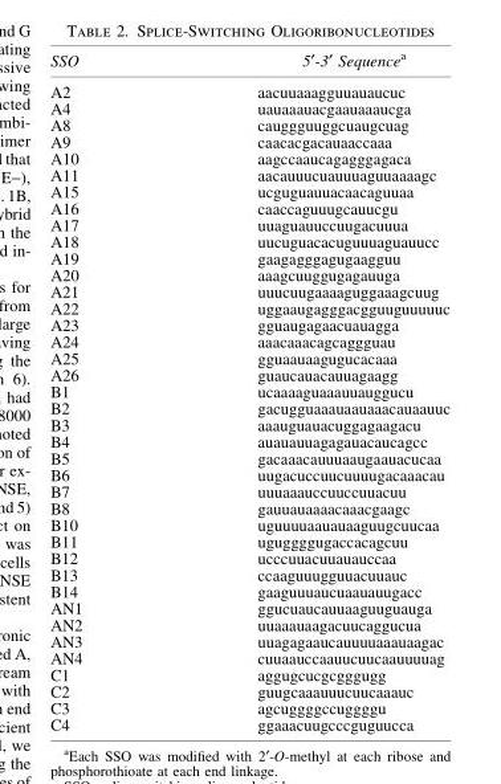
<table><thead><tr><td>SSO</td><td>5¢-3¢ Sequencea</td></tr></thead><tbody><tr><td>A2</td><td>aacuuaaagguuauaucuc</td></tr><tr><td>A4</td><td>uauaaauacgaauaaaucga</td></tr><tr><td>A8</td><td>cauggguuggcuaugcuag</td></tr><tr><td>A9</td><td>caacacgacauaaccaaa</td></tr><tr><td>A10</td><td>aagccaaucagagggagaca</td></tr><tr><td>A11</td><td>aacauuucuauuuaguuaaaagc</td></tr><tr><td>A15</td><td>ucguguauuacaacaguuaa</td></tr><tr><td>A16</td><td>caaccaguuugcauucgu</td></tr><tr><td>A17</td><td>uuaguauuccuugacuuua</td></tr><tr><td>A18</td><td>uucuguacacuguuuaguauucc</td></tr><tr><td>A19</td><td>gaagagggagugaagguu</td></tr><tr><td>A20</td><td>aaagcuuggugagauuga</td></tr><tr><td>A21</td><td>uuucuugaaaaguggaaagcuug</td></tr><tr><td>A22</td><td>uggaaugagggacgguuguuuuuc</td></tr><tr><td>A23</td><td>gguaugagaacuauagga</td></tr><tr><td>A24</td><td>aaacaaacagcaggguau</td></tr><tr><td>A25</td><td>gguaauaagugucacaaa</td></tr><tr><td>A26</td><td>guaucauacauuagaagg</td></tr><tr><td>B1</td><td>ucaaaaguaaauuauggucu</td></tr><tr><td>B2</td><td>gacugguaaauaauaaacauaauuc</td></tr><tr><td>B3</td><td>aaauguauacuggagaagacu</td></tr><tr><td>B4</td><td>auauauuagagauacaucagcc</td></tr><tr><td>B5</td><td>gacaaacauuuaaugaauacucaa</td></tr><tr><td>B6</td><td>uugacuccuucuuuugacaaacau</td></tr><tr><td>B7</td><td>uuuaaauccuuccuuacuu</td></tr><tr><td>B8</td><td>gauuauaaaacaaacgaagc</td></tr><tr><td>B10</td><td>uguuuuaauauaaguugcuucaa</td></tr><tr><td>B11</td><td>uguggggugaccacagcuu</td></tr><tr><td>B12</td><td>ucccuuacuuauauccaa</td></tr><tr><td>B13</td><td>ccaaguuugguuacuuauc</td></tr><tr><td>B14</td><td>gaaguuuaucuaauauugacc</td></tr><tr><td>AN1</td><td>ggucuaucauuaaguuguauga</td></tr><tr><td>AN2</td><td>uuaaauaagacuucaggucua</td></tr><tr><td>AN3</td><td>uuagagaaucauuuuaaauaagac</td></tr><tr><td>AN4</td><td>cuuaauccaauucuucaauuuuag</td></tr><tr><td>C1</td><td>aggugcucgcgggugg</td></tr><tr><td>C2</td><td>guugcaaauuucuucaaauc</td></tr><tr><td>C3</td><td>agcuggggccuggggu</td></tr><tr><td>C4</td><td>ggaaacuugcccguguucca</td></tr></tbody></table>